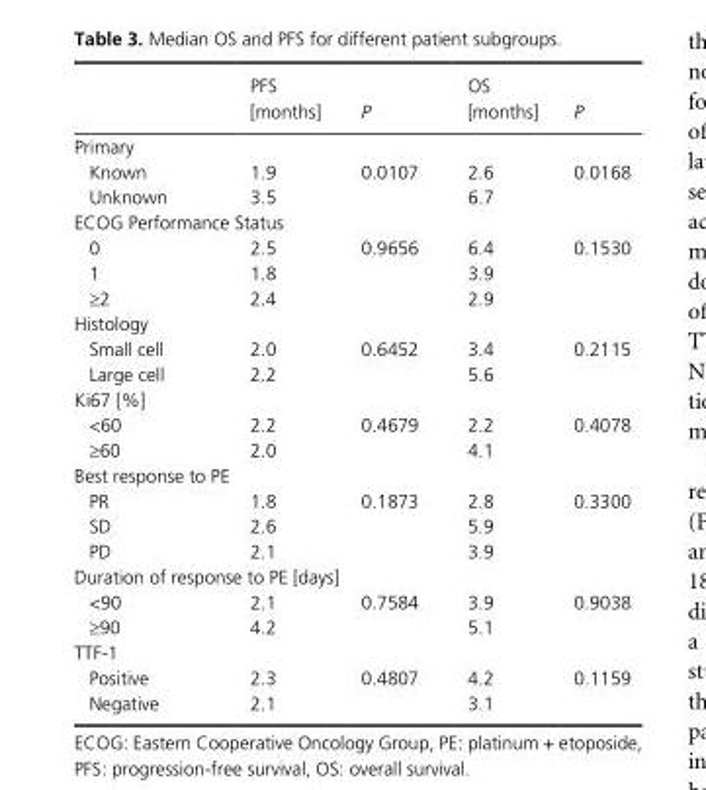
<table><thead><tr><td></td><td>PFS [months]</td><td>P</td><td>OS [months]</td><td>P</td></tr></thead><tbody><tr><td colspan="5">Primary</td></tr><tr><td>Known</td><td>1.9</td><td>0.0107</td><td>2.6</td><td>0.0168</td></tr><tr><td>Unknown</td><td>3.5</td><td></td><td>6.7</td><td></td></tr><tr><td colspan="5">ECOG Performance Status</td></tr><tr><td>0</td><td>2.5</td><td>0.9656</td><td>6.4</td><td>0.1530</td></tr><tr><td>1</td><td>1.8</td><td></td><td>3.9</td><td></td></tr><tr><td>≥2</td><td>2.4</td><td></td><td>2.9</td><td></td></tr><tr><td colspan="5">Histology</td></tr><tr><td>Small cell</td><td>2.0</td><td>0.6452</td><td>3.4</td><td>0.2115</td></tr><tr><td>Large cell</td><td>2.2</td><td></td><td>5.6</td><td></td></tr><tr><td colspan="5">Ki67 [%]</td></tr><tr><td>&lt;60</td><td>2.2</td><td>0.4679</td><td>2.2</td><td>0.4078</td></tr><tr><td>≥60</td><td>2.0</td><td></td><td>4.1</td><td></td></tr><tr><td colspan="5">Best response to PE</td></tr><tr><td>PR</td><td>1.8</td><td>0.1873</td><td>2.8</td><td>0.3300</td></tr><tr><td>SD</td><td>2.6</td><td></td><td>5.9</td><td></td></tr><tr><td>PD</td><td>2.1</td><td></td><td>3.9</td><td></td></tr><tr><td colspan="5">Duration of response to PE [days]</td></tr><tr><td>&lt;90</td><td>2.1</td><td>0.7584</td><td>3.9</td><td>0.9038</td></tr><tr><td>≥90</td><td>4.2</td><td></td><td>5.1</td><td></td></tr><tr><td colspan="5">TTF- 1</td></tr><tr><td>Positive</td><td>2.3</td><td>0.4807</td><td>4.2</td><td>0.1159</td></tr><tr><td>Negative</td><td>2.1</td><td></td><td>3.1</td><td></td></tr></tbody></table>